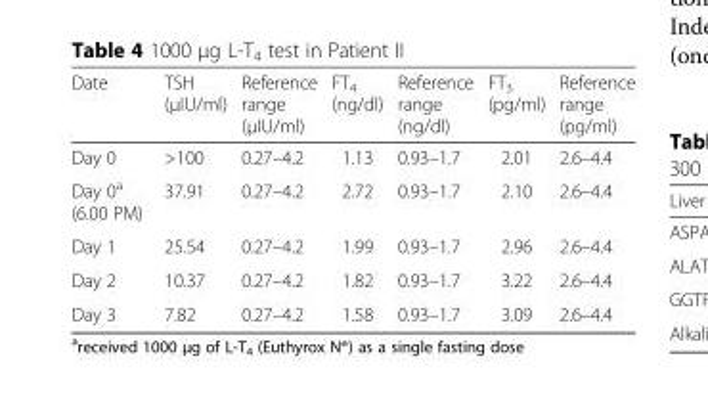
<table><thead><tr><td>Date</td><td>TSH (μIU/ml)</td><td>Reference range (μIU/ml)</td><td>FT<sub>4</sub> (ng/dl)</td><td>Reference range (ng/dl)</td><td>FT<sub>3</sub> (pg/ml)</td><td>Reference range (pg/ml)</td></tr></thead><tbody><tr><td>Day 0</td><td>&gt;100</td><td>0.27–4.2</td><td>1.13</td><td>0.93–1.7</td><td>2.01</td><td>2.6–4.4</td></tr><tr><td>Day 0<sup>a</sup> (6.00 PM)</td><td>37.91</td><td>0.27–4.2</td><td>2.72</td><td>0.93–1.7</td><td>2.10</td><td>2.6–4.4</td></tr><tr><td>Day 1</td><td>25.54</td><td>0.27–4.2</td><td>1.99</td><td>0.93–1.7</td><td>2.96</td><td>2.6–4.4</td></tr><tr><td>Day 2</td><td>10.37</td><td>0.27–4.2</td><td>1.82</td><td>0.93–1.7</td><td>3.22</td><td>2.6–4.4</td></tr><tr><td>Day 3</td><td>7.82</td><td>0.27–4.2</td><td>1.58</td><td>0.93–1.7</td><td>3.09</td><td>2.6–4.4</td></tr></tbody></table>